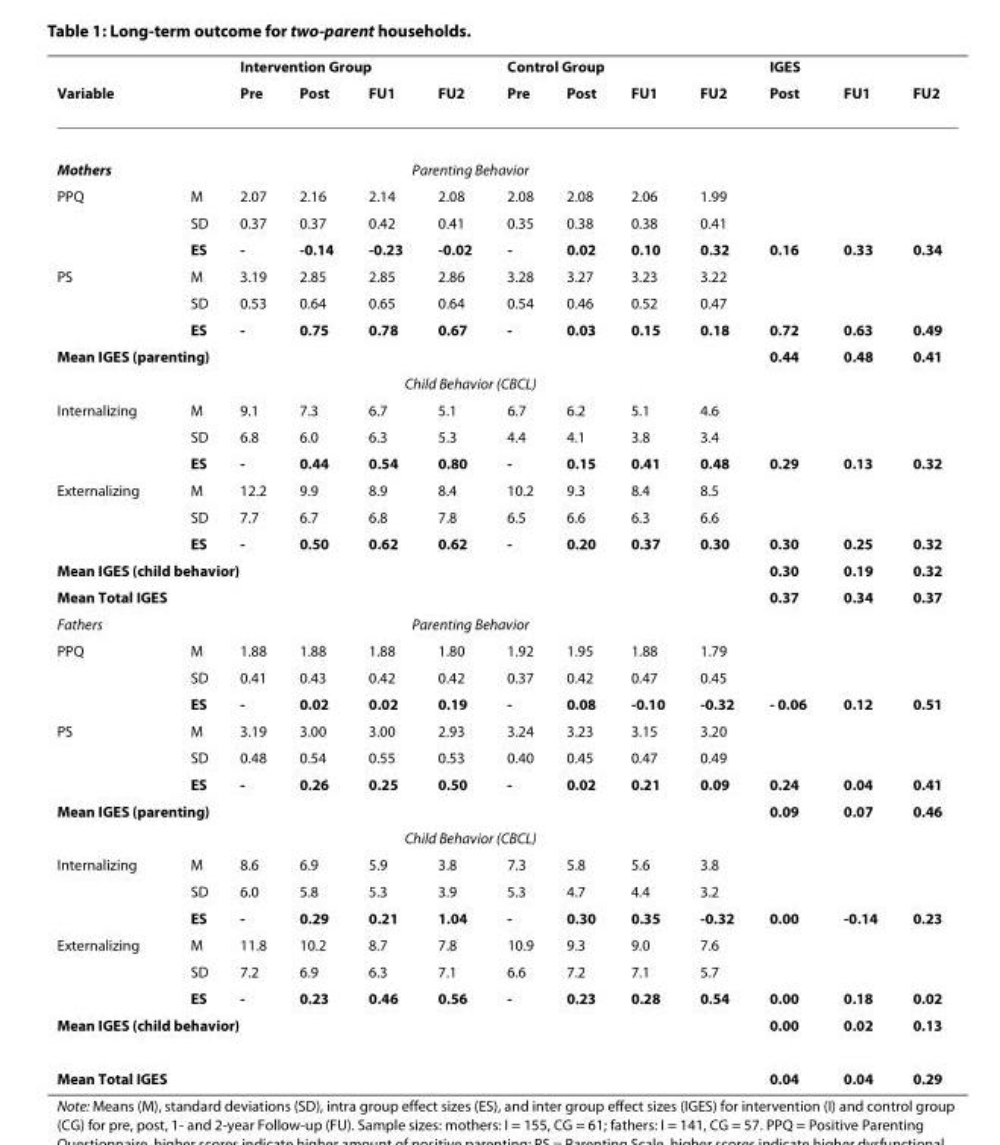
<table><thead><tr><td rowspan="2">Variable</td><td rowspan="2"></td><td colspan="4">Intervention Group</td><td colspan="4">Control Group</td><td colspan="3">IGES</td></tr><tr><td>Pre</td><td>Post</td><td>FU1</td><td>FU2</td><td>Pre</td><td>Post</td><td>FU1</td><td>FU2</td><td>Post</td><td>FU1</td><td>FU2</td></tr></thead><tbody><tr><td>Mothers</td><td colspan="9">Parenting Behavior</td><td></td><td></td><td></td></tr><tr><td rowspan="3">PPQ</td><td>M</td><td>2.07</td><td>2.16</td><td>2.14</td><td>2.08</td><td>2.08</td><td>2.08</td><td>2.06</td><td>1.99</td><td></td><td></td><td></td></tr><tr><td>SD</td><td>0.37</td><td>0.37</td><td>0.42</td><td>0.41</td><td>0.35</td><td>0.38</td><td>0.38</td><td>0.41</td><td></td><td></td><td></td></tr><tr><td>ES</td><td>-</td><td>-0.14</td><td>-0.23</td><td>-0.02</td><td>-</td><td>0.02</td><td>0.10</td><td>0.32</td><td>0.16</td><td>0.33</td><td>0.34</td></tr><tr><td rowspan="3">PS</td><td>M</td><td>3.19</td><td>2.85</td><td>2.85</td><td>2.86</td><td>3.28</td><td>3.27</td><td>3.23</td><td>3.22</td><td></td><td></td><td></td></tr><tr><td>SD</td><td>0.53</td><td>0.64</td><td>0.65</td><td>0.64</td><td>0.54</td><td>0.46</td><td>0.52</td><td>0.47</td><td></td><td></td><td></td></tr><tr><td>ES</td><td>-</td><td>0.75</td><td>0.78</td><td>0.67</td><td>-</td><td>0.03</td><td>0.15</td><td>0.18</td><td>0.72</td><td>0.63</td><td>0.49</td></tr><tr><td colspan="3">Mean IGES (parenting)</td><td></td><td></td><td></td><td></td><td></td><td></td><td></td><td>0.44</td><td>0.48</td><td>0.41</td></tr><tr><td></td><td colspan="9">Child Behavior (CBCL)</td><td></td><td></td><td></td></tr><tr><td rowspan="3">Internalizing</td><td>M</td><td>9.1</td><td>7.3</td><td>6.7</td><td>5.1</td><td>6.7</td><td>6.2</td><td>5.1</td><td>4.6</td><td></td><td></td><td></td></tr><tr><td>SD</td><td>6.8</td><td>6.0</td><td>6.3</td><td>5.3</td><td>4.4</td><td>4.1</td><td>3.8</td><td>3.4</td><td></td><td></td><td></td></tr><tr><td>ES</td><td>-</td><td>0.44</td><td>0.54</td><td>0.80</td><td>-</td><td>0.15</td><td>0.41</td><td>0.48</td><td>0.29</td><td>0.13</td><td>0.32</td></tr><tr><td rowspan="3">Externalizing</td><td>M</td><td>12.2</td><td>9.9</td><td>8.9</td><td>8.4</td><td>10.2</td><td>9.3</td><td>8.4</td><td>8.5</td><td></td><td></td><td></td></tr><tr><td>SD</td><td>7.7</td><td>6.7</td><td>6.8</td><td>7.8</td><td>6.5</td><td>6.6</td><td>6.3</td><td>6.6</td><td></td><td></td><td></td></tr><tr><td>ES</td><td>-</td><td>0.50</td><td>0.62</td><td>0.62</td><td>-</td><td>0.20</td><td>0.37</td><td>0.30</td><td>0.30</td><td>0.25</td><td>0.32</td></tr><tr><td colspan="3">Mean IGES (child behavior)</td><td></td><td></td><td></td><td></td><td></td><td></td><td></td><td>0.30</td><td>0.19</td><td>0.32</td></tr><tr><td>Mean Total IGES</td><td></td><td></td><td></td><td></td><td></td><td></td><td></td><td></td><td></td><td>0.37</td><td>0.34</td><td>0.37</td></tr><tr><td>Fathers</td><td colspan="9">Parenting Behavior</td><td></td><td></td><td></td></tr><tr><td rowspan="3">PPQ</td><td>M</td><td>1.88</td><td>1.88</td><td>1.88</td><td>1.80</td><td>1.92</td><td>1.95</td><td>1.88</td><td>1.79</td><td></td><td></td><td></td></tr><tr><td>SD</td><td>0.41</td><td>0.43</td><td>0.42</td><td>0.42</td><td>0.37</td><td>0.42</td><td>0.47</td><td>0.45</td><td></td><td></td><td></td></tr><tr><td>ES</td><td>-</td><td>0.02</td><td>0.02</td><td>0.19</td><td>-</td><td>0.08</td><td>-0.10</td><td>-0.32</td><td>- 0.06</td><td>0.12</td><td>0.51</td></tr><tr><td rowspan="3">PS</td><td>M</td><td>3.19</td><td>3.00</td><td>3.00</td><td>2.93</td><td>3.24</td><td>3.23</td><td>3.15</td><td>3.20</td><td></td><td></td><td></td></tr><tr><td>SD</td><td>0.48</td><td>0.54</td><td>0.55</td><td>0.53</td><td>0.40</td><td>0.45</td><td>0.47</td><td>0.49</td><td></td><td></td><td></td></tr><tr><td>ES</td><td>-</td><td>0.26</td><td>0.25</td><td>0.50</td><td>-</td><td>0.02</td><td>0.21</td><td>0.09</td><td>0.24</td><td>0.04</td><td>0.41</td></tr><tr><td colspan="3">Mean IGES (parenting)</td><td></td><td></td><td></td><td></td><td></td><td></td><td></td><td>0.09</td><td>0.07</td><td>0.46</td></tr><tr><td></td><td colspan="9">Child Behavior (CBCL)</td><td></td><td></td><td></td></tr><tr><td rowspan="3">Internalizing</td><td>M</td><td>8.6</td><td>6.9</td><td>5.9</td><td>3.8</td><td>7.3</td><td>5.8</td><td>5.6</td><td>3.8</td><td></td><td></td><td></td></tr><tr><td>SD</td><td>6.0</td><td>5.8</td><td>5.3</td><td>3.9</td><td>5.3</td><td>4.7</td><td>4.4</td><td>3.2</td><td></td><td></td><td></td></tr><tr><td>ES</td><td>-</td><td>0.29</td><td>0.21</td><td>1.04</td><td>-</td><td>0.30</td><td>0.35</td><td>-0.32</td><td>0.00</td><td>-0.14</td><td>0.23</td></tr><tr><td rowspan="3">Externalizing</td><td>M</td><td>11.8</td><td>10.2</td><td>8.7</td><td>7.8</td><td>10.9</td><td>9.3</td><td>9.0</td><td>7.6</td><td></td><td></td><td></td></tr><tr><td>SD</td><td>7.2</td><td>6.9</td><td>6.3</td><td>7.1</td><td>6.6</td><td>7.2</td><td>7.1</td><td>5.7</td><td></td><td></td><td></td></tr><tr><td>ES</td><td>-</td><td>0.23</td><td>0.46</td><td>0.56</td><td>-</td><td>0.23</td><td>0.28</td><td>0.54</td><td>0.00</td><td>0.18</td><td>0.02</td></tr><tr><td colspan="3">Mean IGES (child behavior)</td><td></td><td></td><td></td><td></td><td></td><td></td><td></td><td>0.00</td><td>0.02</td><td>0.13</td></tr><tr><td colspan="2">Mean Total IGES</td><td></td><td></td><td></td><td></td><td></td><td></td><td></td><td></td><td>0.04</td><td>0.04</td><td>0.29</td></tr></tbody></table>